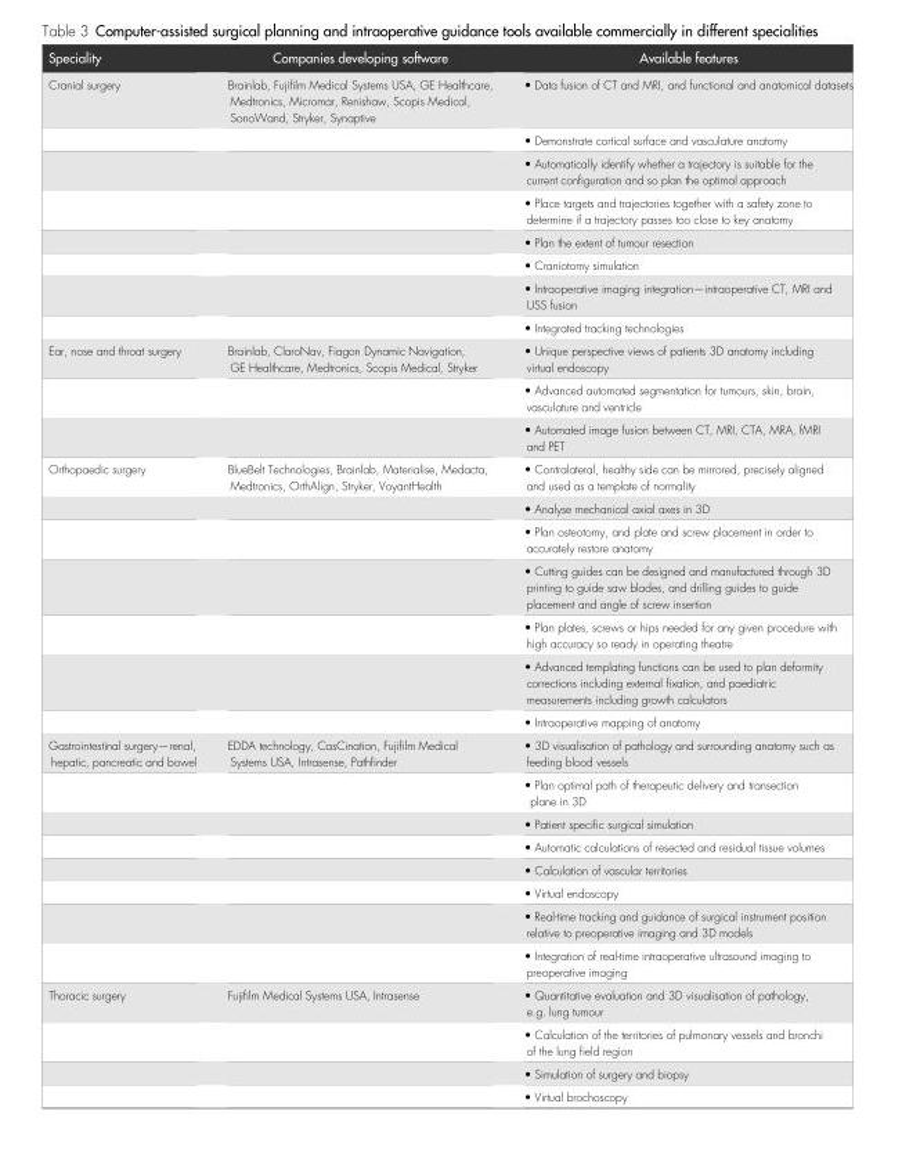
<table><thead><tr><td>Speciality</td><td>Companies developing software</td><td>Available features</td></tr></thead><tbody><tr><td rowspan="8">Cranial surgery</td><td>Brainlab, Fujifilm Medical Systems USA, GE Healthcare, Medtronics, Micromar, Renishaw, Scopis Medical, SonoWand, Stryker, Synaptive</td><td>• Data fusion of CT and MRI, and functional and anatomical datasets</td></tr><tr><td></td><td>• Demonstrate cortical surface and vasculature anatomy</td></tr><tr><td></td><td>• Automatically identify whether a trajectory is suitable for the current configuration and so plan the optimal approach</td></tr><tr><td></td><td>• Place targets and trajectories together with a safety zone to determine if a trajectory passes too close to key anatomy</td></tr><tr><td></td><td>• Plan the extent of tumour resection</td></tr><tr><td></td><td>• Craniotomy simulation</td></tr><tr><td></td><td>• Intraoperative imaging integration—intraoperative CT, MRI and USS fusion</td></tr><tr><td></td><td>• Integrated tracking technologies</td></tr><tr><td rowspan="3">Ear, nose and throat surgery</td><td>Brainlab, ClaroNav, Fiagon Dynamic Navigation, GE Healthcare, Medtronics, Scopis Medical, Stryker</td><td>• Unique perspective views of patients 3D anatomy including virtual endoscopy</td></tr><tr><td></td><td>• Advanced automated segmentation for tumours, skin, brain, vasculature and ventricle</td></tr><tr><td></td><td>• Automated image fusion between CT, MRI, CTA, MRA, fMRI and PET</td></tr><tr><td rowspan="7">Orthopaedic surgery</td><td>BlueBelt Technologies, Brainlab, Materialise, Medacta, Medtronics, OrthAlign, Stryker, VoyantHealth</td><td>• Contralateral, healthy side can be mirrored, precisely aligned and used as a template of normality</td></tr><tr><td></td><td>• Analyse mechanical axial axes in 3D</td></tr><tr><td></td><td>• Plan osteotomy, and plate and screw placement in order to accurately restore anatomy</td></tr><tr><td></td><td>• Cutting guides can be designed and manufactured through 3D printing to guide saw blades, and drilling guides to guide placement and angle of screw insertion</td></tr><tr><td></td><td>• Plan plates, screws or hips needed for any given procedure with high accuracy so ready in operating theatre</td></tr><tr><td></td><td>• Advanced templating functions can be used to plan deformity corrections including external fixation, and paediatric measurements including growth calculators</td></tr><tr><td></td><td>• Intraoperative mapping of anatomy</td></tr><tr><td rowspan="8">Gastrointestinal surgery—renal, hepatic, pancreatic and bowel</td><td>EDDA technology, CasCination, Fujifilm Medical Systems USA, Intrasense, Pathfinder</td><td>• 3D visualisation of pathology and surrounding anatomy such as feeding blood vessels</td></tr><tr><td></td><td>• Plan optimal path of therapeutic delivery and transection plane in 3D</td></tr><tr><td></td><td>• Patient specific surgical simulation</td></tr><tr><td></td><td>• Automatic calculations of resected and residual tissue volumes</td></tr><tr><td></td><td>• Calculation of vascular territories</td></tr><tr><td></td><td>• Virtual endoscopy</td></tr><tr><td></td><td>• Real-time tracking and guidance of surgical instrument position relative to preoperative imaging and 3D models</td></tr><tr><td></td><td>• Integration of real-time intraoperative ultrasound imaging to preoperative imaging</td></tr><tr><td rowspan="4">Thoracic surgery</td><td>Fujifilm Medical Systems USA, Intrasense</td><td>• Quantitative evaluation and 3D visualisation of pathology, e.g. lung tumour</td></tr><tr><td></td><td>• Calculation of the territories of pulmonary vessels and bronchi of the lung field region</td></tr><tr><td></td><td>• Simulation of surgery and biopsy</td></tr><tr><td></td><td>• Virtual brochoscopy</td></tr></tbody></table>